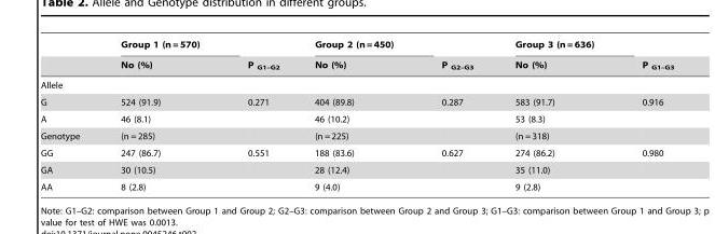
<table><thead><tr><td rowspan="2"></td><td rowspan="2">Group 1 (n = 570) No (%)</td><td rowspan="2">P <sub>G1–G2</sub></td><td rowspan="2">Group 2 (n = 450) No (%)</td><td rowspan="2">P <sub>G2–G3</sub></td><td rowspan="2">Group 3 (n = 636) No (%)</td><td rowspan="2">P <sub>G1–G3</sub></td></tr><tr></tr></thead><tbody><tr><td colspan="7">Allele</td></tr><tr><td>G</td><td>524 (91.9)</td><td>0.271</td><td>404 (89.8)</td><td>0.287</td><td>583 (91.7)</td><td>0.916</td></tr><tr><td>A</td><td>46 (8.1)</td><td></td><td>46 (10.2)</td><td></td><td>53 (8.3)</td><td></td></tr><tr><td>Genotype</td><td>(n = 285)</td><td></td><td>(n = 225)</td><td></td><td>(n = 318)</td><td></td></tr><tr><td>GG</td><td>247 (86.7)</td><td>0.551</td><td>188 (83.6)</td><td>0.627</td><td>274 (86.2)</td><td>0.980</td></tr><tr><td>GA</td><td>30 (10.5)</td><td></td><td>28 (12.4)</td><td></td><td>35 (11.0)</td><td></td></tr><tr><td>AA</td><td>8 (2.8)</td><td></td><td>9 (4.0)</td><td></td><td>9 (2.8)</td><td></td></tr></tbody></table>